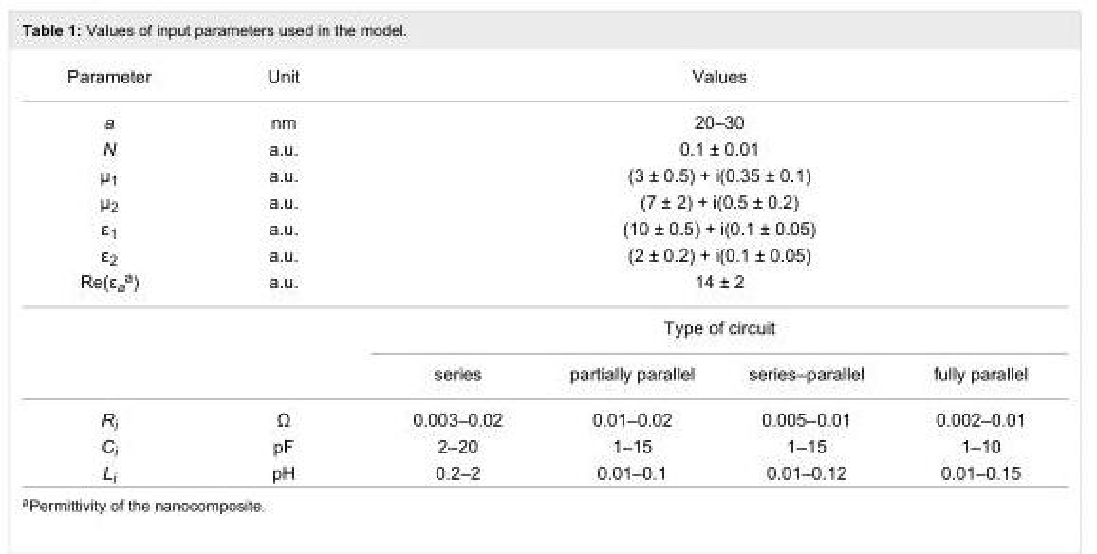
<table><tbody><tr><td>Parameter</td><td>Unit</td><td colspan="4">Values</td></tr><tr><td>a</td><td>nm</td><td colspan="4">20–30</td></tr><tr><td>N</td><td>a.u.</td><td colspan="4">0.1 ± 0.01</td></tr><tr><td>μ<sub>1</sub></td><td>a.u.</td><td colspan="4">(3 ± 0.5) + i(0.35 ± 0.1)</td></tr><tr><td>μ<sub>2</sub></td><td>a.u.</td><td colspan="4">(7 ± 2) + i(0.5 ± 0.2)</td></tr><tr><td>ε<sub>1</sub></td><td>a.u.</td><td colspan="4">(10 ± 0.5) + i(0.1 ± 0.05)</td></tr><tr><td>ε<sub>2</sub></td><td>a.u.</td><td colspan="4">(2 ± 0.2) + i(0.1 ± 0.05)</td></tr><tr><td rowspan="3">Re(ε<sub>a</sub><sup>a</sup>)</td><td>a.u.</td><td colspan="4">14 ± 2</td></tr><tr><td rowspan="2"></td><td colspan="4">Type of circuit</td></tr><tr><td>series</td><td>partially parallel</td><td>series–parallel</td><td>fully parallel</td></tr><tr><td>R<sub>i</sub></td><td>Ω</td><td>0.003–0.02</td><td>0.01–0.02</td><td>0.005–0.01</td><td>0.002–0.01</td></tr><tr><td>C<sub>i</sub></td><td>pF</td><td>2–20</td><td>1–15</td><td>1–15</td><td>1–10</td></tr><tr><td>L<sub>i</sub></td><td>pH</td><td>0.2–2</td><td>0.01–0.1</td><td>0.01–0.12</td><td>0.01–0.15</td></tr></tbody></table>